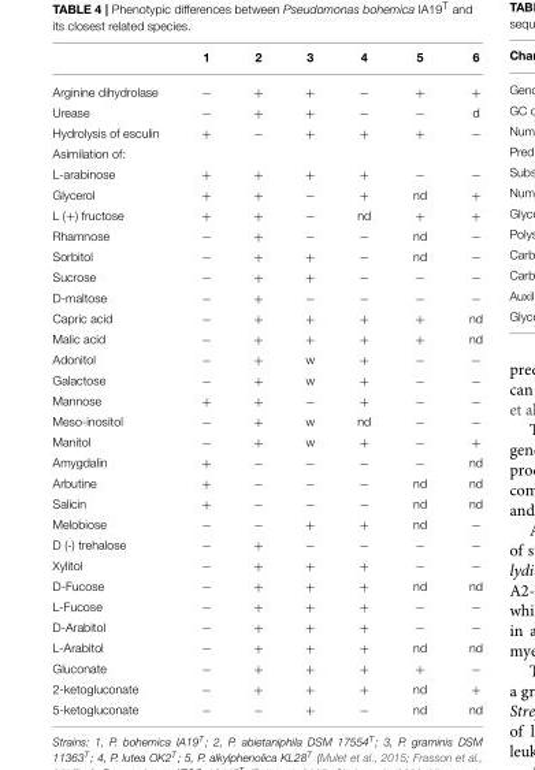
<table><thead><tr><td></td><td>1</td><td>2</td><td>3</td><td>4</td><td>5</td><td>6</td></tr></thead><tbody><tr><td>Arginine dihydrolase</td><td>−</td><td>+</td><td>+</td><td>−</td><td>+</td><td>+</td></tr><tr><td>Urease</td><td>−</td><td>+</td><td>+</td><td>−</td><td>−</td><td>d</td></tr><tr><td>Hydrolysis of esculin</td><td>+</td><td>−</td><td>+</td><td>+</td><td>+</td><td>−</td></tr><tr><td colspan="7">Asimilation of:</td></tr><tr><td>L-arabinose</td><td>+</td><td>+</td><td>+</td><td>+</td><td>−</td><td>−</td></tr><tr><td>Glycerol</td><td>+</td><td>+</td><td>−</td><td>+</td><td>nd</td><td>+</td></tr><tr><td>L (+) fructose</td><td>+</td><td>+</td><td>−</td><td>nd</td><td>+</td><td>+</td></tr><tr><td>Rhamnose</td><td>−</td><td>+</td><td>−</td><td>−</td><td>nd</td><td>−</td></tr><tr><td>Sorbitol</td><td>−</td><td>+</td><td>+</td><td>−</td><td>nd</td><td>−</td></tr><tr><td>Sucrose</td><td>−</td><td>+</td><td>+</td><td>−</td><td>−</td><td>−</td></tr><tr><td>D-maltose</td><td>−</td><td>+</td><td>−</td><td>−</td><td>−</td><td>−</td></tr><tr><td>Capric acid</td><td>−</td><td>+</td><td>+</td><td>+</td><td>+</td><td>nd</td></tr><tr><td>Malic acid</td><td>−</td><td>+</td><td>+</td><td>+</td><td>+</td><td>nd</td></tr><tr><td>Adonitol</td><td>−</td><td>+</td><td>w</td><td>+</td><td>−</td><td>−</td></tr><tr><td>Galactose</td><td>−</td><td>+</td><td>w</td><td>+</td><td>−</td><td>−</td></tr><tr><td>Mannose</td><td>+</td><td>+</td><td>−</td><td>+</td><td>−</td><td>−</td></tr><tr><td>Meso-inositol</td><td>−</td><td>+</td><td>w</td><td>nd</td><td>−</td><td>−</td></tr><tr><td>Manitol</td><td>−</td><td>+</td><td>w</td><td>+</td><td>−</td><td>+</td></tr><tr><td>Amygdalin</td><td>+</td><td>−</td><td>−</td><td>−</td><td>−</td><td>nd</td></tr><tr><td>Arbutine</td><td>+</td><td>−</td><td>−</td><td>−</td><td>nd</td><td>nd</td></tr><tr><td>Salicin</td><td>+</td><td>−</td><td>−</td><td>−</td><td>nd</td><td>nd</td></tr><tr><td>Melobiose</td><td>−</td><td>−</td><td>+</td><td>+</td><td>nd</td><td>−</td></tr><tr><td>D (-) trehalose</td><td>−</td><td>+</td><td>−</td><td>−</td><td>−</td><td>−</td></tr><tr><td>Xylitol</td><td>−</td><td>+</td><td>+</td><td>+</td><td>−</td><td>−</td></tr><tr><td>D-Fucose</td><td>−</td><td>+</td><td>+</td><td>+</td><td>nd</td><td>nd</td></tr><tr><td>L-Fucose</td><td>−</td><td>+</td><td>+</td><td>+</td><td>−</td><td>−</td></tr><tr><td>D-Arabitol</td><td>−</td><td>+</td><td>+</td><td>+</td><td>−</td><td>−</td></tr><tr><td>L-Arabitol</td><td>−</td><td>+</td><td>+</td><td>+</td><td>nd</td><td>nd</td></tr><tr><td>Gluconate</td><td>−</td><td>+</td><td>+</td><td>+</td><td>+</td><td>−</td></tr><tr><td>2-ketogluconate</td><td>−</td><td>+</td><td>+</td><td>+</td><td>nd</td><td>+</td></tr><tr><td>5-ketogluconate</td><td>−</td><td>−</td><td>+</td><td>−</td><td>nd</td><td>nd</td></tr></tbody></table>